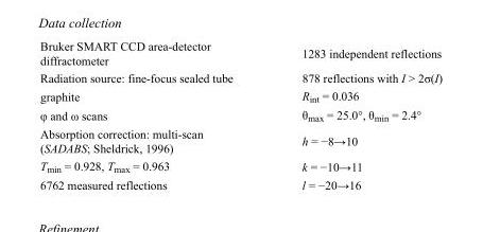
<table><tbody><tr><td>Bruker SMART CCD area-detector diffractometer</td><td>1283 independent reflections</td></tr><tr><td>Radiation source: fine-focus sealed tube</td><td>878 reflections with I &gt; 2σ(I)</td></tr><tr><td>graphite</td><td>R<sub>int</sub> = 0.036</td></tr><tr><td>φ and ω scans</td><td>θ<sub>max</sub> = 25.0°, θ<sub>min</sub> = 2.4°</td></tr><tr><td>Absorption correction: multi-scan (SADABS; Sheldrick, 1996)</td><td>h = −8→10</td></tr><tr><td>T<sub>min</sub> = 0.928, T<sub>max</sub> = 0.963</td><td>k = −10→11</td></tr><tr><td>6762 measured reflections</td><td>l = −20→16</td></tr></tbody></table>